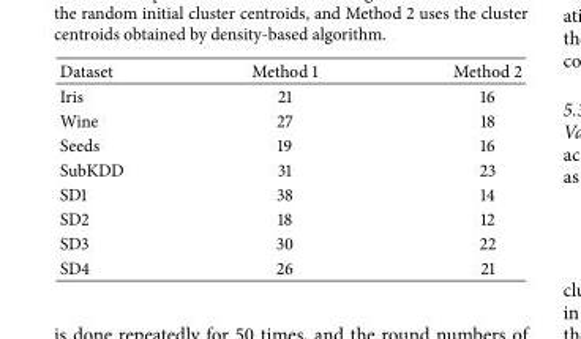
<table><thead><tr><td>Dataset</td><td>Method 1</td><td>Method 2</td></tr></thead><tbody><tr><td>Iris</td><td>21</td><td>16</td></tr><tr><td>Wine</td><td>27</td><td>18</td></tr><tr><td>Seeds</td><td>19</td><td>16</td></tr><tr><td>SubKDD</td><td>31</td><td>23</td></tr><tr><td>SD1</td><td>38</td><td>14</td></tr><tr><td>SD2</td><td>18</td><td>12</td></tr><tr><td>SD3</td><td>30</td><td>22</td></tr><tr><td>SD4</td><td>26</td><td>21</td></tr></tbody></table>